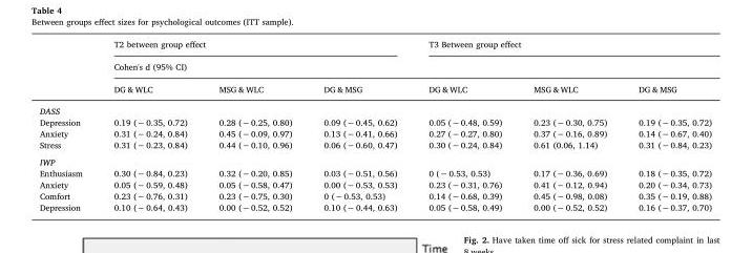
<table><thead><tr><td rowspan="3"></td><td colspan="3">T2 between group effect</td><td colspan="3">T3 Between group effect</td></tr><tr><td colspan="6">Cohen&#x27;s d (95% CI)</td></tr><tr><td>DG &amp; WLC</td><td>MSG &amp; WLC</td><td>DG &amp; MSG</td><td>DG &amp; WLC</td><td>MSG &amp; WLC</td><td>DG &amp; MSG</td></tr></thead><tbody><tr><td colspan="7">DASS</td></tr><tr><td>Depression</td><td>0.19 (−0.35, 0.72)</td><td>0.28 (−0.25, 0.80)</td><td>0.09 (−0.45, 0.62)</td><td>0.05 (−0.48, 0.59)</td><td>0.23 (−0.30, 0.75)</td><td>0.19 (−0.35, 0.72)</td></tr><tr><td>Anxiety</td><td>0.31 (−0.24, 0.84)</td><td>0.45 (−0.09, 0.97)</td><td>0.13 (−0.41, 0.66)</td><td>0.27 (−0.27, 0.80)</td><td>0.37 (−0.16, 0.89)</td><td>0.14 (−0.67, 0.40)</td></tr><tr><td>Stress</td><td>0.31 (−0.23, 0.84)</td><td>0.44 (−0.10, 0.96)</td><td>0.06 (−0.60, 0.47)</td><td>0.30 (−0.24, 0.84)</td><td>0.61 (0.06, 1.14)</td><td>0.31 (−0.84, 0.23)</td></tr><tr><td colspan="7">IWP</td></tr><tr><td>Enthusiasm</td><td>0.30 (−0.84, 0.23)</td><td>0.32 (−0.20, 0.85)</td><td>0.03 (−0.51, 0.56)</td><td>0 (−0.53, 0.53)</td><td>0.17 (−0.36, 0.69)</td><td>0.18 (−0.35, 0.72)</td></tr><tr><td>Anxiety</td><td>0.05 (−0.59, 0.48)</td><td>0.05 (−0.58, 0.47)</td><td>0.00 (−0.53, 0.53)</td><td>0.23 (−0.31, 0.76)</td><td>0.41 (−0.12, 0.94)</td><td>0.20 (−0.34, 0.73)</td></tr><tr><td>Comfort</td><td>0.23 (−0.76, 0.31)</td><td>0.23 (−0.75, 0.30)</td><td>0 (−0.53, 0.53)</td><td>0.14 (−0.68, 0.39)</td><td>0.45 (−0.98, 0.08)</td><td>0.35 (−0.19, 0.88)</td></tr><tr><td>Depression</td><td>0.10 (−0.64, 0.43)</td><td>0.00 (−0.52, 0.52)</td><td>0.10 (−0.44, 0.63)</td><td>0.05 (−0.58, 0.49)</td><td>0.00 (−0.52, 0.52)</td><td>0.16 (−0.37, 0.70)</td></tr></tbody></table>